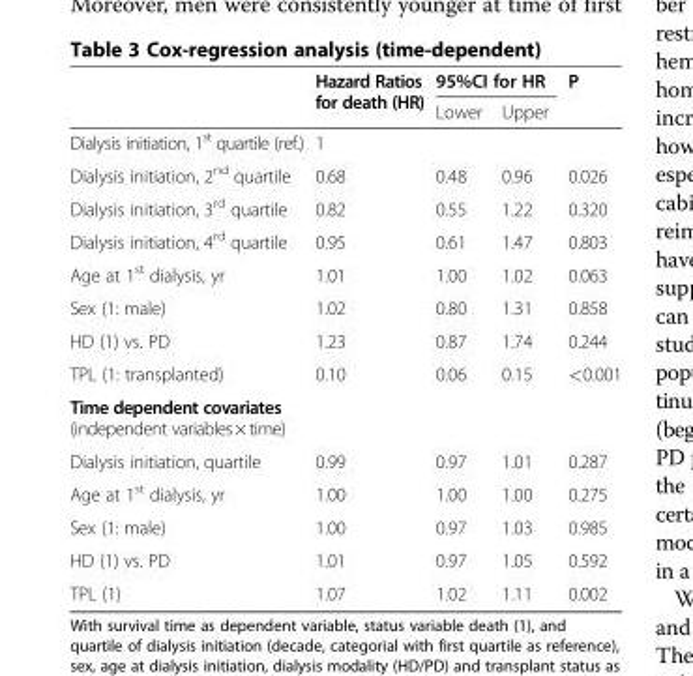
<table><thead><tr><td rowspan="2"></td><td rowspan="2">Hazard Ratios for death (HR)</td><td colspan="2">95%CI for HR</td><td rowspan="2">P</td></tr><tr><td>Lower</td><td>Upper</td></tr></thead><tbody><tr><td>Dialysis initiation, 1<sup>st</sup> quartile (ref.)</td><td>1</td><td></td><td></td><td></td></tr><tr><td>Dialysis initiation, 2<sup>nd</sup> quartile</td><td>0.68</td><td>0.48</td><td>0.96</td><td>0.026</td></tr><tr><td>Dialysis initiation, 3<sup>rd</sup> quartile</td><td>0.82</td><td>0.55</td><td>1.22</td><td>0.320</td></tr><tr><td>Dialysis initiation, 4<sup>rd</sup> quartile</td><td>0.95</td><td>0.61</td><td>1.47</td><td>0.803</td></tr><tr><td>Age at 1<sup>st</sup> dialysis, yr</td><td>1.01</td><td>1.00</td><td>1.02</td><td>0.063</td></tr><tr><td>Sex (1: male)</td><td>1.02</td><td>0.80</td><td>1.31</td><td>0.858</td></tr><tr><td>HD (1) vs. PD</td><td>1.23</td><td>0.87</td><td>1.74</td><td>0.244</td></tr><tr><td>TPL (1: transplanted)</td><td>0.10</td><td>0.06</td><td>0.15</td><td>&lt;0.001</td></tr><tr><td colspan="5">Time dependent covariates (independent variables×time)</td></tr><tr><td>Dialysis initiation, quartile</td><td>0.99</td><td>0.97</td><td>1.01</td><td>0.287</td></tr><tr><td>Age at 1<sup>st</sup> dialysis, yr</td><td>1.00</td><td>1.00</td><td>1.00</td><td>0.275</td></tr><tr><td>Sex (1: male)</td><td>1.00</td><td>0.97</td><td>1.03</td><td>0.985</td></tr><tr><td>HD (1) vs. PD</td><td>1.01</td><td>0.97</td><td>1.05</td><td>0.592</td></tr><tr><td>TPL (1)</td><td>1.07</td><td>1.02</td><td>1.11</td><td>0.002</td></tr></tbody></table>